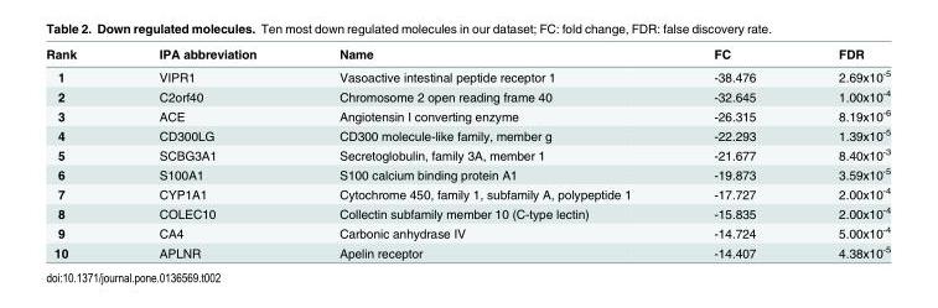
<table><thead><tr><td>Rank</td><td>IPA abbreviation</td><td>Name</td><td>FC</td><td>FDR</td></tr></thead><tbody><tr><td>1</td><td>VIPR1</td><td>Vasoactive intestinal peptide receptor 1</td><td>-38.476</td><td>2.69x10<sup>-5</sup></td></tr><tr><td>2</td><td>C2orf40</td><td>Chromosome 2 open reading frame 40</td><td>-32.645</td><td>1.00x10<sup>-4</sup></td></tr><tr><td>3</td><td>ACE</td><td>Angiotensin I converting enzyme</td><td>-26.315</td><td>8.19x10<sup>-6</sup></td></tr><tr><td>4</td><td>CD300LG</td><td>CD300 molecule-like family, member g</td><td>-22.293</td><td>1.39x10<sup>-5</sup></td></tr><tr><td>5</td><td>SCBG3A1</td><td>Secretoglobulin, family 3A, member 1</td><td>-21.677</td><td>8.40x10<sup>-3</sup></td></tr><tr><td>6</td><td>S100A1</td><td>S100 calcium binding protein A1</td><td>-19.873</td><td>3.59x10<sup>-5</sup></td></tr><tr><td>7</td><td>CYP1A1</td><td>Cytochrome 450, family 1, subfamily A, polypeptide 1</td><td>-17.727</td><td>2.00x10<sup>-4</sup></td></tr><tr><td>8</td><td>COLEC10</td><td>Collectin subfamily member 10 (C-type lectin)</td><td>-15.835</td><td>2.00x10<sup>-4</sup></td></tr><tr><td>9</td><td>CA4</td><td>Carbonic anhydrase IV</td><td>-14.724</td><td>5.00x10<sup>-4</sup></td></tr><tr><td>10</td><td>APLNR</td><td>Apelin receptor</td><td>-14.407</td><td>4.38x10<sup>-5</sup></td></tr></tbody></table>